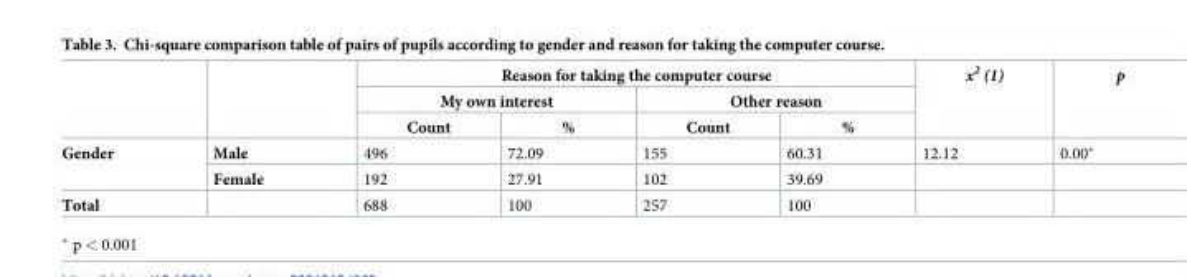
<table><thead><tr><td rowspan="3"></td><td rowspan="3"></td><td colspan="4">Reason for taking the computer course</td><td rowspan="3">x<sup>2</sup> (1)</td><td rowspan="3">p</td></tr><tr><td colspan="2">My own interest</td><td colspan="2">Other reason</td></tr><tr><td>Count</td><td>%</td><td>Count</td><td>%</td></tr></thead><tbody><tr><td rowspan="2">Gender</td><td>Male</td><td>496</td><td>72.09</td><td>155</td><td>60.31</td><td>12.12</td><td>0.00*</td></tr><tr><td>Female</td><td>192</td><td>27.91</td><td>102</td><td>39.69</td><td></td><td></td></tr><tr><td>Total</td><td></td><td>688</td><td>100</td><td>257</td><td>100</td><td></td><td></td></tr></tbody></table>